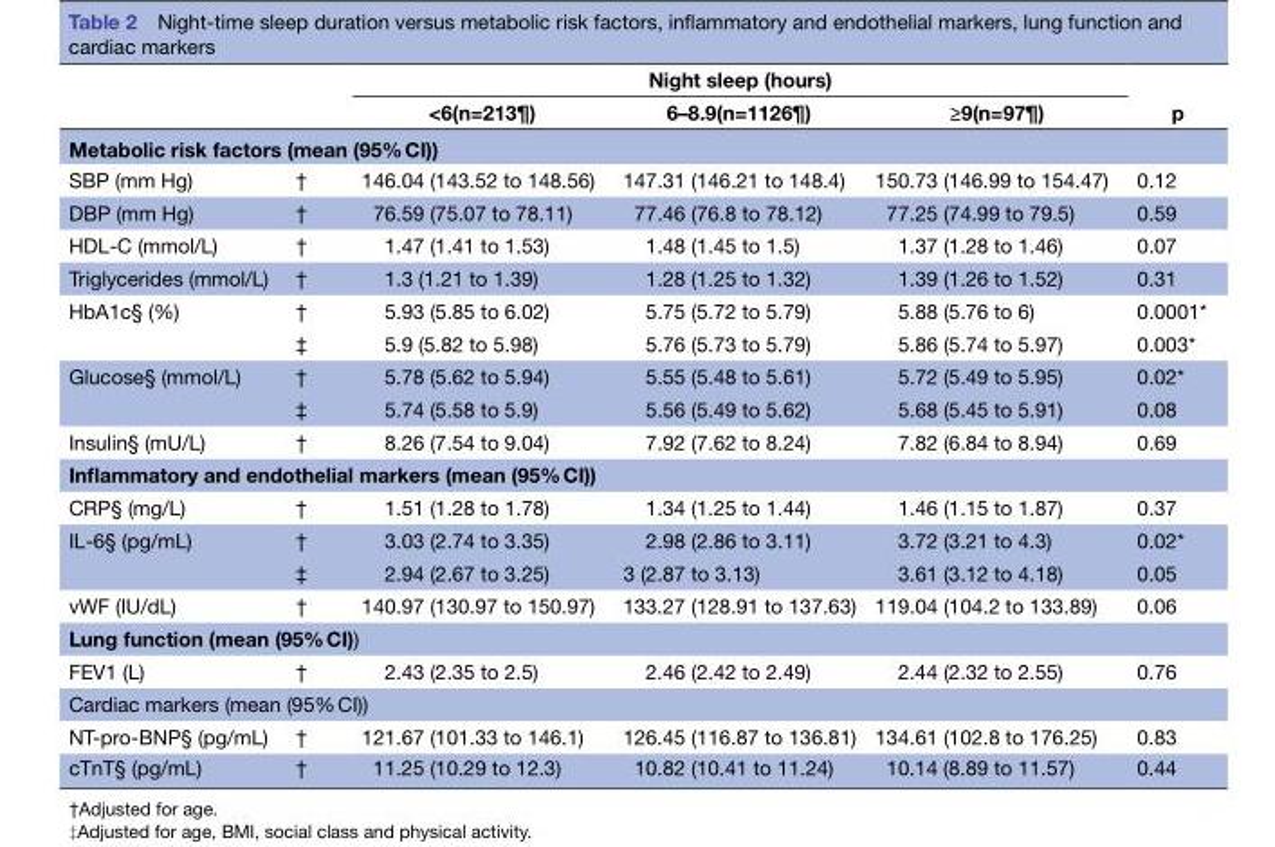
<table><thead><tr><td rowspan="2"></td><td rowspan="2"></td><td colspan="3">Night sleep (hours)</td><td rowspan="2">p</td></tr><tr><td>&lt;6(n=213¶)</td><td>6–8.9(n=1126¶)</td><td>≥9(n=97¶)</td></tr></thead><tbody><tr><td colspan="6">Metabolic risk factors (mean (95% CI))</td></tr><tr><td>SBP (mm Hg)</td><td>†</td><td>146.04 (143.52 to 148.56)</td><td>147.31 (146.21 to 148.4)</td><td>150.73 (146.99 to 154.47)</td><td>0.12</td></tr><tr><td>DBP (mm Hg)</td><td>†</td><td>76.59 (75.07 to 78.11)</td><td>77.46 (76.8 to 78.12)</td><td>77.25 (74.99 to 79.5)</td><td>0.59</td></tr><tr><td>HDL-C (mmol/L)</td><td>†</td><td>1.47 (1.41 to 1.53)</td><td>1.48 (1.45 to 1.5)</td><td>1.37 (1.28 to 1.46)</td><td>0.07</td></tr><tr><td>Triglycerides (mmol/L)</td><td>†</td><td>1.3 (1.21 to 1.39)</td><td>1.28 (1.25 to 1.32)</td><td>1.39 (1.26 to 1.52)</td><td>0.31</td></tr><tr><td rowspan="2">HbA1c§ (%)</td><td>†</td><td>5.93 (5.85 to 6.02)</td><td>5.75 (5.72 to 5.79)</td><td>5.88 (5.76 to 6)</td><td>0.0001*</td></tr><tr><td>‡</td><td>5.9 (5.82 to 5.98)</td><td>5.76 (5.73 to 5.79)</td><td>5.86 (5.74 to 5.97)</td><td>0.003*</td></tr><tr><td rowspan="2">Glucose§ (mmol/L)</td><td>†</td><td>5.78 (5.62 to 5.94)</td><td>5.55 (5.48 to 5.61)</td><td>5.72 (5.49 to 5.95)</td><td>0.02*</td></tr><tr><td>‡</td><td>5.74 (5.58 to 5.9)</td><td>5.56 (5.49 to 5.62)</td><td>5.68 (5.45 to 5.91)</td><td>0.08</td></tr><tr><td>Insulin§ (mU/L)</td><td>†</td><td>8.26 (7.54 to 9.04)</td><td>7.92 (7.62 to 8.24)</td><td>7.82 (6.84 to 8.94)</td><td>0.69</td></tr><tr><td colspan="6">Inflammatory and endothelial markers (mean (95% CI))</td></tr><tr><td>CRP§ (mg/L)</td><td>†</td><td>1.51 (1.28 to 1.78)</td><td>1.34 (1.25 to 1.44)</td><td>1.46 (1.15 to 1.87)</td><td>0.37</td></tr><tr><td rowspan="2">IL-6§ (pg/mL)</td><td>†</td><td>3.03 (2.74 to 3.35)</td><td>2.98 (2.86 to 3.11)</td><td>3.72 (3.21 to 4.3)</td><td>0.02*</td></tr><tr><td>‡</td><td>2.94 (2.67 to 3.25)</td><td>3 (2.87 to 3.13)</td><td>3.61 (3.12 to 4.18)</td><td>0.05</td></tr><tr><td>vWF (IU/dL)</td><td>†</td><td>140.97 (130.97 to 150.97)</td><td>133.27 (128.91 to 137.63)</td><td>119.04 (104.2 to 133.89)</td><td>0.06</td></tr><tr><td colspan="6">Lung function (mean (95% CI))</td></tr><tr><td>FEV1 (L)</td><td>†</td><td>2.43 (2.35 to 2.5)</td><td>2.46 (2.42 to 2.49)</td><td>2.44 (2.32 to 2.55)</td><td>0.76</td></tr><tr><td colspan="6">Cardiac markers (mean (95% CI))</td></tr><tr><td>NT-pro-BNP§ (pg/mL)</td><td>†</td><td>121.67 (101.33 to 146.1)</td><td>126.45 (116.87 to 136.81)</td><td>134.61 (102.8 to 176.25)</td><td>0.83</td></tr><tr><td>cTnT§ (pg/mL)</td><td>†</td><td>11.25 (10.29 to 12.3)</td><td>10.82 (10.41 to 11.24)</td><td>10.14 (8.89 to 11.57)</td><td>0.44</td></tr></tbody></table>